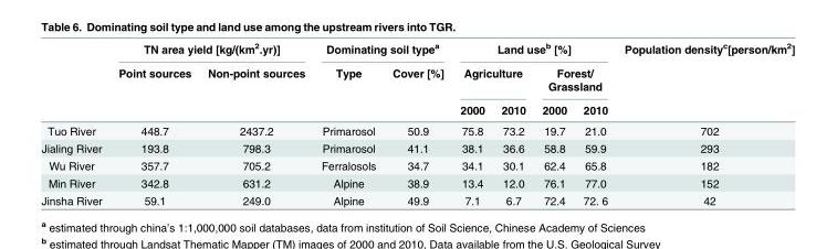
<table><thead><tr><td rowspan="3"></td><td colspan="2">TN area yield [kg/(km<sup>2</sup>.yr)]</td><td colspan="2">Dominating soil type<sup>a</sup></td><td colspan="4">Land use<sup>b</sup> [%]</td><td rowspan="3">Population density<sup>c</sup>[person/km<sup>2</sup>]</td></tr><tr><td rowspan="2">Point sources</td><td rowspan="2">Non-point sources</td><td rowspan="2">Type</td><td rowspan="2">Cover [%]</td><td colspan="2">Agriculture</td><td colspan="2">Forest/ Grassland</td></tr><tr><td>2000</td><td>2010</td><td>2000</td><td>2010</td></tr></thead><tbody><tr><td>Tuo River</td><td>448.7</td><td>2437.2</td><td>Primarosol</td><td>50.9</td><td>75.8</td><td>73.2</td><td>19.7</td><td>21.0</td><td>702</td></tr><tr><td>Jialing River</td><td>193.8</td><td>798.3</td><td>Primarosol</td><td>41.1</td><td>38.1</td><td>36.6</td><td>58.8</td><td>59.9</td><td>293</td></tr><tr><td>Wu River</td><td>357.7</td><td>705.2</td><td>Ferralosols</td><td>34.7</td><td>34.1</td><td>30.1</td><td>62.4</td><td>65.8</td><td>182</td></tr><tr><td>Min River</td><td>342.8</td><td>631.2</td><td>Alpine</td><td>38.9</td><td>13.4</td><td>12.0</td><td>76.1</td><td>77.0</td><td>152</td></tr><tr><td>Jinsha River</td><td>59.1</td><td>249.0</td><td>Alpine</td><td>49.9</td><td>7.1</td><td>6.7</td><td>72.4</td><td>72. 6</td><td>42</td></tr></tbody></table>